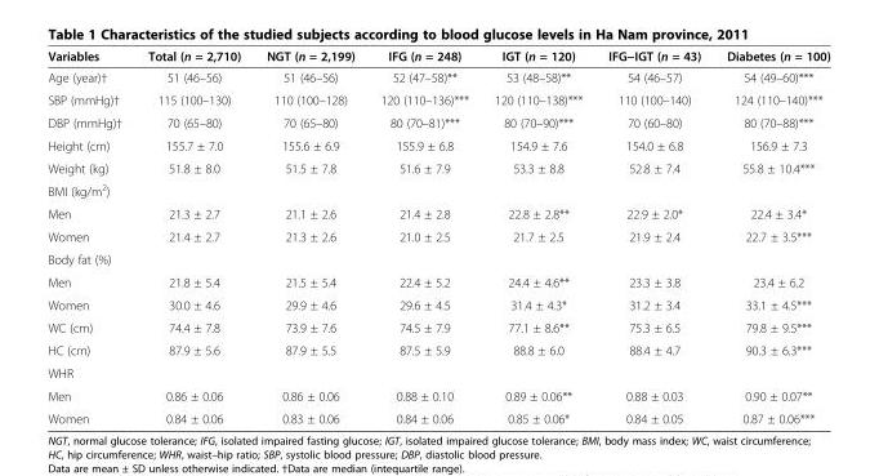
<table><thead><tr><td>Variables</td><td>Total (n = 2,710)</td><td>NGT (n = 2,199)</td><td>IFG (n = 248)</td><td>IGT (n = 120)</td><td>IFG−IGT (n = 43)</td><td>Diabetes (n = 100)</td></tr></thead><tbody><tr><td>Age (year)†</td><td>51 (46–56)</td><td>51 (46–56)</td><td>52 (47–58)**</td><td>53 (48–58)**</td><td>54 (46–57)</td><td>54 (49–60)***</td></tr><tr><td>SBP (mmHg)†</td><td>115 (100–130)</td><td>110 (100–128)</td><td>120 (110–136)***</td><td>120 (110–138)***</td><td>110 (100–140)</td><td>124 (110–140)***</td></tr><tr><td>DBP (mmHg)†</td><td>70 (65–80)</td><td>70 (65–80)</td><td>80 (70–81)***</td><td>80 (70–90)***</td><td>70 (60–80)</td><td>80 (70–88)***</td></tr><tr><td>Height (cm)</td><td>155.7 ± 7.0</td><td>155.6 ± 6.9</td><td>155.9 ± 6.8</td><td>154.9 ± 7.6</td><td>154.0 ± 6.8</td><td>156.9 ± 7.3</td></tr><tr><td>Weight (kg)</td><td>51.8 ± 8.0</td><td>51.5 ± 7.8</td><td>51.6 ± 7.9</td><td>53.3 ± 8.8</td><td>52.8 ± 7.4</td><td>55.8 ± 10.4***</td></tr><tr><td colspan="7">BMI (kg/m<sup>2</sup>)</td></tr><tr><td>Men</td><td>21.3 ± 2.7</td><td>21.1 ± 2.6</td><td>21.4 ± 2.8</td><td>22.8 ± 2.8**</td><td>22.9 ± 2.0*</td><td>22.4 ± 3.4*</td></tr><tr><td>Women</td><td>21.4 ± 2.7</td><td>21.3 ± 2.6</td><td>21.0 ± 2.5</td><td>21.7 ± 2.5</td><td>21.9 ± 2.4</td><td>22.7 ± 3.5***</td></tr><tr><td colspan="7">Body fat (%)</td></tr><tr><td>Men</td><td>21.8 ± 5.4</td><td>21.5 ± 5.4</td><td>22.4 ± 5.2</td><td>24.4 ± 4.6**</td><td>23.3 ± 3.8</td><td>23.4 ± 6.2</td></tr><tr><td>Women</td><td>30.0 ± 4.6</td><td>29.9 ± 4.6</td><td>29.6 ± 4.5</td><td>31.4 ± 4.3*</td><td>31.2 ± 3.4</td><td>33.1 ± 4.5***</td></tr><tr><td>WC (cm)</td><td>74.4 ± 7.8</td><td>73.9 ± 7.6</td><td>74.5 ± 7.9</td><td>77.1 ± 8.6**</td><td>75.3 ± 6.5</td><td>79.8 ± 9.5***</td></tr><tr><td>HC (cm)</td><td>87.9 ± 5.6</td><td>87.9 ± 5.5</td><td>87.5 ± 5.9</td><td>88.8 ± 6.0</td><td>88.4 ± 4.7</td><td>90.3 ± 6.3***</td></tr><tr><td colspan="7">WHR</td></tr><tr><td>Men</td><td>0.86 ± 0.06</td><td>0.86 ± 0.06</td><td>0.88 ± 0.10</td><td>0.89 ± 0.06**</td><td>0.88 ± 0.03</td><td>0.90 ± 0.07**</td></tr><tr><td>Women</td><td>0.84 ± 0.06</td><td>0.83 ± 0.06</td><td>0.84 ± 0.06</td><td>0.85 ± 0.06*</td><td>0.84 ± 0.05</td><td>0.87 ± 0.06***</td></tr></tbody></table>